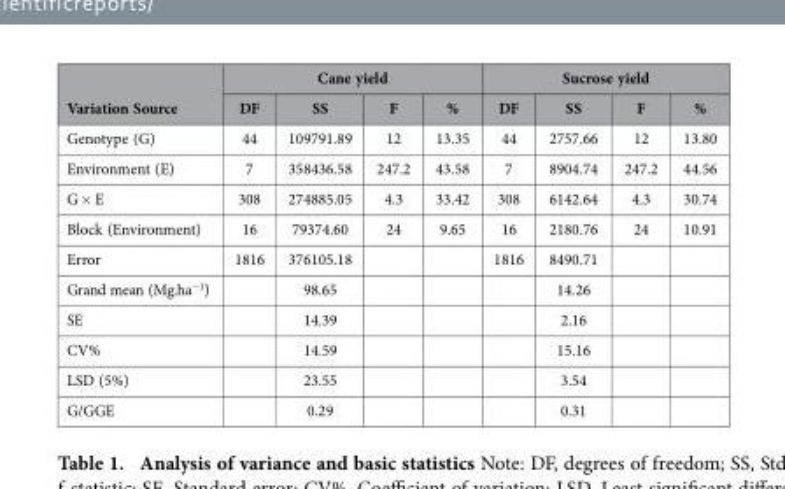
<table><thead><tr><td rowspan="2">Variation Source</td><td colspan="4">Cane yield</td><td colspan="4">Sucrose yield</td></tr><tr><td>DF</td><td>SS</td><td>F</td><td>%</td><td>DF</td><td>SS</td><td>F</td><td>%</td></tr></thead><tbody><tr><td>Genotype (G)</td><td>44</td><td>109791.89</td><td>12</td><td>13.35</td><td>44</td><td>2757.66</td><td>12</td><td>13.80</td></tr><tr><td>Environment (E)</td><td>7</td><td>358436.58</td><td>247.2</td><td>43.58</td><td>7</td><td>8904.74</td><td>247.2</td><td>44.56</td></tr><tr><td>G × E</td><td>308</td><td>274885.05</td><td>4.3</td><td>33.42</td><td>308</td><td>6142.64</td><td>4.3</td><td>30.74</td></tr><tr><td>Block (Environment)</td><td>16</td><td>79374.60</td><td>24</td><td>9.65</td><td>16</td><td>2180.76</td><td>24</td><td>10.91</td></tr><tr><td>Error</td><td>1816</td><td>376105.18</td><td></td><td></td><td>1816</td><td>8490.71</td><td></td><td></td></tr><tr><td>Grand mean (Mg.ha<sup>-1</sup>)</td><td></td><td>98.65</td><td></td><td></td><td></td><td>14.26</td><td></td><td></td></tr><tr><td>SE</td><td></td><td>14.39</td><td></td><td></td><td></td><td>2.16</td><td></td><td></td></tr><tr><td>CV%</td><td></td><td>14.59</td><td></td><td></td><td></td><td>15.16</td><td></td><td></td></tr><tr><td>LSD (5%)</td><td></td><td>23.55</td><td></td><td></td><td></td><td>3.54</td><td></td><td></td></tr><tr><td>G/GGE</td><td></td><td>0.29</td><td></td><td></td><td></td><td>0.31</td><td></td><td></td></tr></tbody></table>